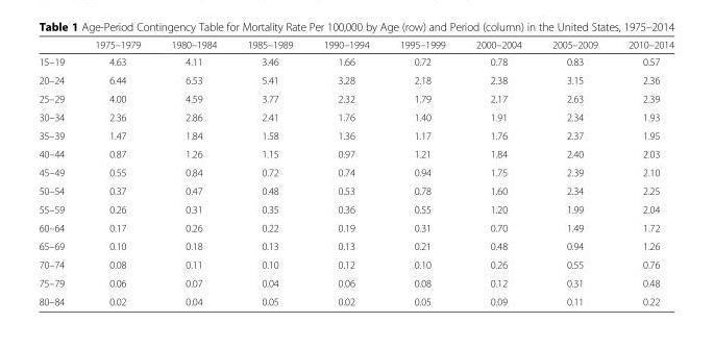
<table><thead><tr><td></td><td>1975–1979</td><td>1980–1984</td><td>1985–1989</td><td>1990–1994</td><td>1995–1999</td><td>2000–2004</td><td>2005–2009</td><td>2010–2014</td></tr></thead><tbody><tr><td>15–19</td><td>4.63</td><td>4.11</td><td>3.46</td><td>1.66</td><td>0.72</td><td>0.78</td><td>0.83</td><td>0.57</td></tr><tr><td>20–24</td><td>6.44</td><td>6.53</td><td>5.41</td><td>3.28</td><td>2.18</td><td>2.38</td><td>3.15</td><td>2.36</td></tr><tr><td>25–29</td><td>4.00</td><td>4.59</td><td>3.77</td><td>2.32</td><td>1.79</td><td>2.17</td><td>2.63</td><td>2.39</td></tr><tr><td>30–34</td><td>2.36</td><td>2.86</td><td>2.41</td><td>1.76</td><td>1.40</td><td>1.91</td><td>2.34</td><td>1.93</td></tr><tr><td>35–39</td><td>1.47</td><td>1.84</td><td>1.58</td><td>1.36</td><td>1.17</td><td>1.76</td><td>2.37</td><td>1.95</td></tr><tr><td>40–44</td><td>0.87</td><td>1.26</td><td>1.15</td><td>0.97</td><td>1.21</td><td>1.84</td><td>2.40</td><td>2.03</td></tr><tr><td>45–49</td><td>0.55</td><td>0.84</td><td>0.72</td><td>0.74</td><td>0.94</td><td>1.75</td><td>2.39</td><td>2.10</td></tr><tr><td>50–54</td><td>0.37</td><td>0.47</td><td>0.48</td><td>0.53</td><td>0.78</td><td>1.60</td><td>2.34</td><td>2.25</td></tr><tr><td>55–59</td><td>0.26</td><td>0.31</td><td>0.35</td><td>0.36</td><td>0.55</td><td>1.20</td><td>1.99</td><td>2.04</td></tr><tr><td>60–64</td><td>0.17</td><td>0.26</td><td>0.22</td><td>0.19</td><td>0.31</td><td>0.70</td><td>1.49</td><td>1.72</td></tr><tr><td>65–69</td><td>0.10</td><td>0.18</td><td>0.13</td><td>0.13</td><td>0.21</td><td>0.48</td><td>0.94</td><td>1.26</td></tr><tr><td>70–74</td><td>0.08</td><td>0.11</td><td>0.10</td><td>0.12</td><td>0.10</td><td>0.26</td><td>0.55</td><td>0.76</td></tr><tr><td>75–79</td><td>0.06</td><td>0.07</td><td>0.04</td><td>0.06</td><td>0.08</td><td>0.12</td><td>0.31</td><td>0.48</td></tr><tr><td>80–84</td><td>0.02</td><td>0.04</td><td>0.05</td><td>0.02</td><td>0.05</td><td>0.09</td><td>0.11</td><td>0.22</td></tr></tbody></table>